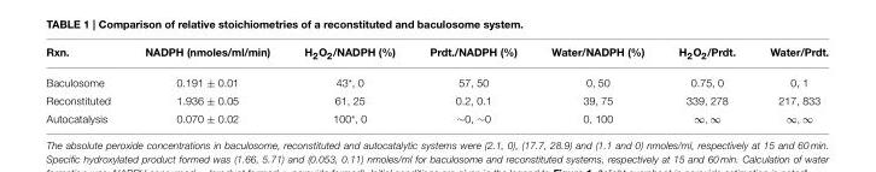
<table><thead><tr><td>Rxn.</td><td>NADPH (nmoles/ml/min)</td><td>H<sub>2</sub>O<sub>2</sub>/NADPH (%)</td><td>Prdt./NADPH (%)</td><td>Water/NADPH (%)</td><td>H<sub>2</sub>O<sub>2</sub>/Prdt.</td><td>Water/Prdt.</td></tr></thead><tbody><tr><td>Baculosome</td><td>0.191 ± 0.01</td><td>43*, 0</td><td>57, 50</td><td>0, 50</td><td>0.75, 0</td><td>0, 1</td></tr><tr><td>Reconstituted</td><td>1.936 ± 0.05</td><td>61, 25</td><td>0.2, 0.1</td><td>39, 75</td><td>339, 278</td><td>217, 833</td></tr><tr><td>Autocatalysis</td><td>0.070 ± 0.02</td><td>100*, 0</td><td>∼0, ∼0</td><td>0, 100</td><td>∞, ∞</td><td>∞, ∞</td></tr></tbody></table>